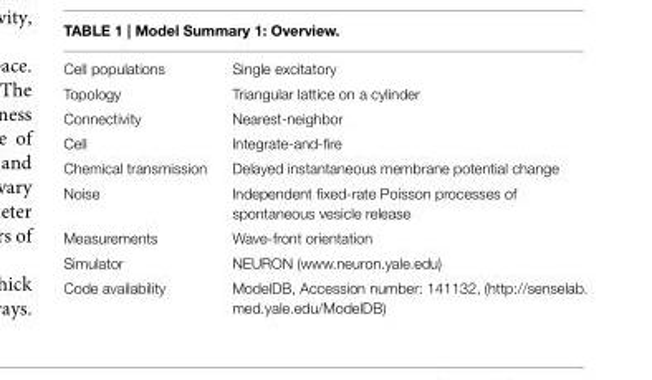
<table><tbody><tr><td>Cell populations</td><td>Single excitatory</td></tr><tr><td>Topology</td><td>Triangular lattice on a cylinder</td></tr><tr><td>Connectivity</td><td>Nearest-neighbor</td></tr><tr><td>Cell</td><td>Integrate-and-fire</td></tr><tr><td>Chemical transmission</td><td>Delayed instantaneous membrane potential change</td></tr><tr><td>Noise</td><td>Independent fixed-rate Poisson processes of spontaneous vesicle release</td></tr><tr><td>Measurements</td><td>Wave-front orientation</td></tr><tr><td>Simulator</td><td>NEURON (www.neuron.yale.edu)</td></tr><tr><td>Code availability</td><td>ModelDB, Accession number: 141132, (http://senselab. med.yale.edu/ModelDB)</td></tr></tbody></table>